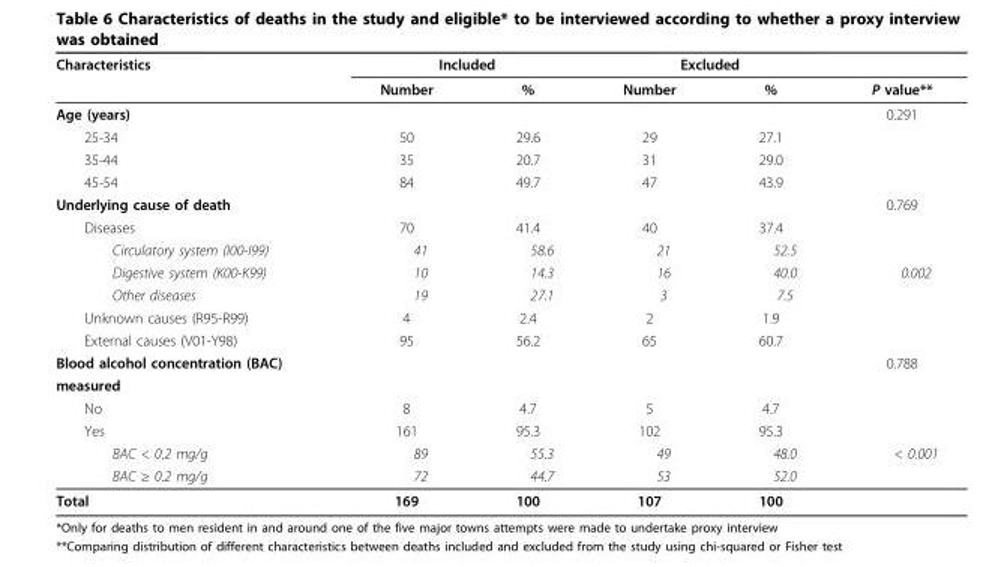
<table><thead><tr><td rowspan="2">Characteristics</td><td colspan="2">Included</td><td colspan="2">Excluded</td><td rowspan="2">P value**</td></tr><tr><td>Number</td><td>%</td><td>Number</td><td>%</td></tr></thead><tbody><tr><td>Age (years)</td><td></td><td></td><td></td><td></td><td>0.291</td></tr><tr><td>25-34</td><td>50</td><td>29.6</td><td>29</td><td>27.1</td><td></td></tr><tr><td>35-44</td><td>35</td><td>20.7</td><td>31</td><td>29.0</td><td></td></tr><tr><td>45-54</td><td>84</td><td>49.7</td><td>47</td><td>43.9</td><td></td></tr><tr><td>Underlying cause of death</td><td></td><td></td><td></td><td></td><td>0.769</td></tr><tr><td>Diseases</td><td>70</td><td>41.4</td><td>40</td><td>37.4</td><td></td></tr><tr><td>Circulatory system (I00-I99)</td><td>41</td><td>58.6</td><td>21</td><td>52.5</td><td></td></tr><tr><td>Digestive system (K00-K99)</td><td>10</td><td>14.3</td><td>16</td><td>40.0</td><td>0.002</td></tr><tr><td>Other diseases</td><td>19</td><td>27.1</td><td>3</td><td>7.5</td><td></td></tr><tr><td>Unknown causes (R95-R99)</td><td>4</td><td>2.4</td><td>2</td><td>1.9</td><td></td></tr><tr><td>External causes (V01-Y98)</td><td>95</td><td>56.2</td><td>65</td><td>60.7</td><td></td></tr><tr><td>Blood alcohol concentration (BAC)</td><td></td><td></td><td></td><td></td><td>0.788</td></tr><tr><td colspan="6">measured</td></tr><tr><td>No</td><td>8</td><td>4.7</td><td>5</td><td>4.7</td><td></td></tr><tr><td>Yes</td><td>161</td><td>95.3</td><td>102</td><td>95.3</td><td></td></tr><tr><td>BAC &lt; 0.2 mg/g</td><td>89</td><td>55.3</td><td>49</td><td>48.0</td><td>&lt; 0.001</td></tr><tr><td>BAC ≥ 0.2 mg/g</td><td>72</td><td>44.7</td><td>53</td><td>52.0</td><td></td></tr><tr><td>Total</td><td>169</td><td>100</td><td>107</td><td>100</td><td></td></tr></tbody></table>